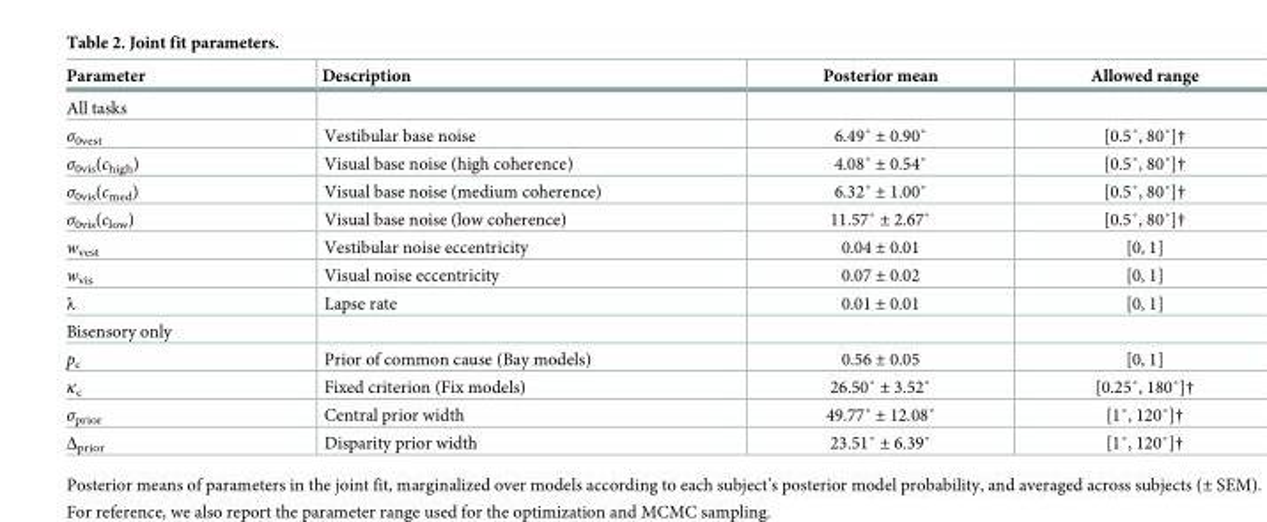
<table><thead><tr><td>Parameter</td><td>Description</td><td>Posterior mean</td><td>Allowed range</td></tr></thead><tbody><tr><td colspan="4">All tasks</td></tr><tr><td>σ<sub>0vest</sub></td><td>Vestibular base noise</td><td>6.49˚ ± 0.90˚</td><td>[0.5˚, 80˚]†</td></tr><tr><td>σ<sub>0vis</sub>(c<sub>high</sub>)</td><td>Visual base noise (high coherence)</td><td>4.08˚ ± 0.54˚</td><td>[0.5˚, 80˚]†</td></tr><tr><td>σ<sub>0vis</sub>(c<sub>med</sub>)</td><td>Visual base noise (medium coherence)</td><td>6.32˚ ± 1.00˚</td><td>[0.5˚, 80˚]†</td></tr><tr><td>σ<sub>0vis</sub>(c<sub>low</sub>)</td><td>Visual base noise (low coherence)</td><td>11.57˚ ± 2.67˚</td><td>[0.5˚, 80˚]†</td></tr><tr><td>w<sub>vest</sub></td><td>Vestibular noise eccentricity</td><td>0.04 ± 0.01</td><td>[0, 1]</td></tr><tr><td>w<sub>vis</sub></td><td>Visual noise eccentricity</td><td>0.07 ± 0.02</td><td>[0, 1]</td></tr><tr><td>λ</td><td>Lapse rate</td><td>0.01 ± 0.01</td><td>[0, 1]</td></tr><tr><td colspan="4">Bisensory only</td></tr><tr><td>p<sub>c</sub></td><td>Prior of common cause (Bay models)</td><td>0.56 ± 0.05</td><td>[0, 1]</td></tr><tr><td>κ<sub>c</sub></td><td>Fixed criterion (Fix models)</td><td>26.50˚ ± 3.52˚</td><td>[0.25˚, 180˚]†</td></tr><tr><td>σ<sub>prior</sub></td><td>Central prior width</td><td>49.77˚ ± 12.08˚</td><td>[1˚, 120˚]†</td></tr><tr><td>Δ<sub>prior</sub></td><td>Disparity prior width</td><td>23.51˚ ± 6.39˚</td><td>[1˚, 120˚]†</td></tr></tbody></table>